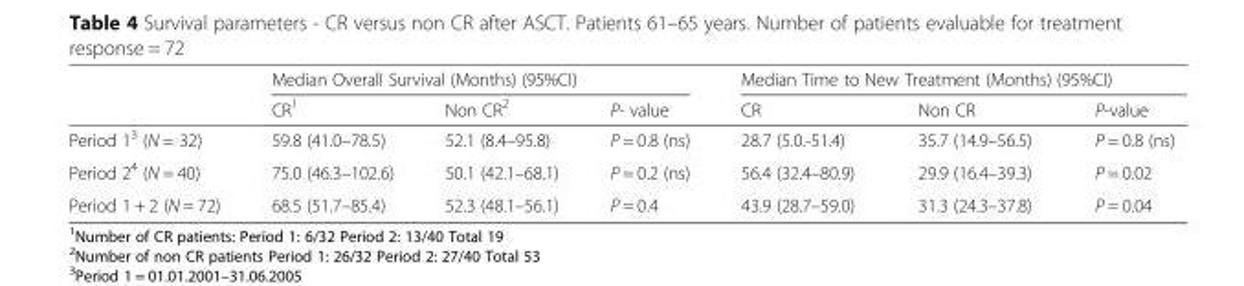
<table><thead><tr><td rowspan="2"></td><td colspan="3">Median Overall Survival (Months) (95%CI)</td><td colspan="3">Median Time to New Treatment (Months) (95%CI)</td></tr><tr><td>CR<sup>1</sup></td><td>Non CR<sup>2</sup></td><td>P- value</td><td>CR</td><td>Non CR</td><td>P-value</td></tr></thead><tbody><tr><td>Period 1<sup>3</sup> (N = 32)</td><td>59.8 (41.0–78.5)</td><td>52.1 (8.4–95.8)</td><td>P = 0.8 (ns)</td><td>28.7 (5.0.-51.4)</td><td>35.7 (14.9–56.5)</td><td>P = 0.8 (ns)</td></tr><tr><td>Period 2<sup>4</sup> (N = 40)</td><td>75.0 (46.3–102.6)</td><td>50.1 (42.1–68.1)</td><td>P = 0.2 (ns)</td><td>56.4 (32.4–80.9)</td><td>29.9 (16.4–39.3)</td><td>P = 0.02</td></tr><tr><td>Period 1 + 2 (N = 72)</td><td>68.5 (51.7–85.4)</td><td>52.3 (48.1–56.1)</td><td>P = 0.4</td><td>43.9 (28.7–59.0)</td><td>31.3 (24.3–37.8)</td><td>P = 0.04</td></tr></tbody></table>